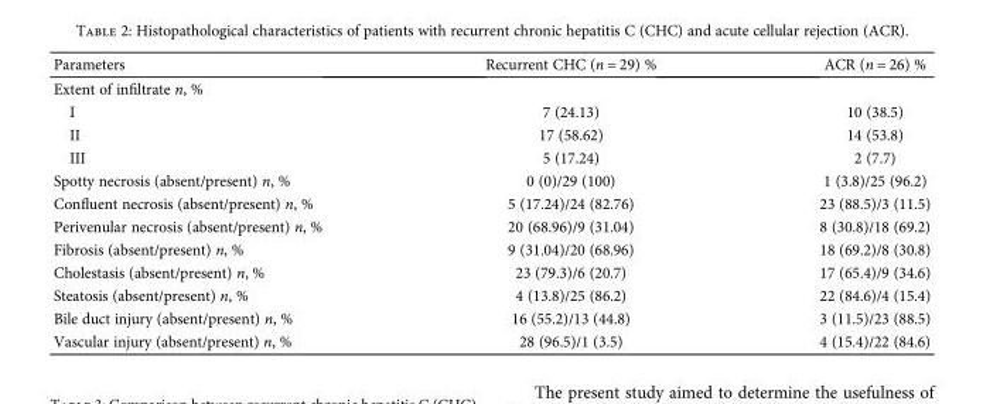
<table><thead><tr><td>Parameters</td><td>Recurrent CHC (n = 29) %</td><td>ACR (n = 26) %</td></tr></thead><tbody><tr><td colspan="3">Extent of infiltrate n, %</td></tr><tr><td>I</td><td>7 (24.13)</td><td>10 (38.5)</td></tr><tr><td>II</td><td>17 (58.62)</td><td>14 (53.8)</td></tr><tr><td>III</td><td>5 (17.24)</td><td>2 (7.7)</td></tr><tr><td>Spotty necrosis (absent/present) n, %</td><td>0 (0)/29 (100)</td><td>1 (3.8)/25 (96.2)</td></tr><tr><td>Confluent necrosis (absent/present) n, %</td><td>5 (17.24)/24 (82.76)</td><td>23 (88.5)/3 (11.5)</td></tr><tr><td>Perivenular necrosis (absent/present) n, %</td><td>20 (68.96)/9 (31.04)</td><td>8 (30.8)/18 (69.2)</td></tr><tr><td>Fibrosis (absent/present) n, %</td><td>9 (31.04)/20 (68.96)</td><td>18 (69.2)/8 (30.8)</td></tr><tr><td>Cholestasis (absent/present) n, %</td><td>23 (79.3)/6 (20.7)</td><td>17 (65.4)/9 (34.6)</td></tr><tr><td>Steatosis (absent/present) n, %</td><td>4 (13.8)/25 (86.2)</td><td>22 (84.6)/4 (15.4)</td></tr><tr><td>Bile duct injury (absent/present) n, %</td><td>16 (55.2)/13 (44.8)</td><td>3 (11.5)/23 (88.5)</td></tr><tr><td>Vascular injury (absent/present) n, %</td><td>28 (96.5)/1 (3.5)</td><td>4 (15.4)/22 (84.6)</td></tr></tbody></table>